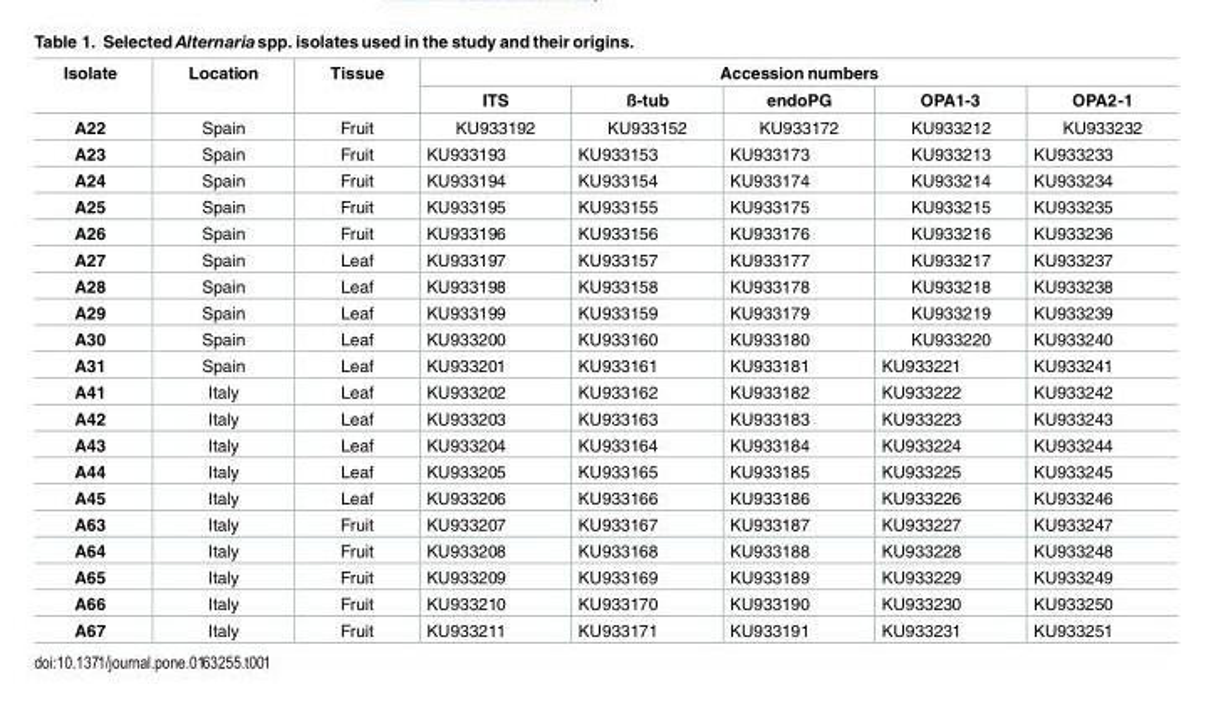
<table><thead><tr><td rowspan="2">Isolate</td><td rowspan="2">Location</td><td rowspan="2">Tissue</td><td colspan="5">Accession numbers</td></tr><tr><td>ITS</td><td>ß-tub</td><td>endoPG</td><td>OPA1-3</td><td>OPA2-1</td></tr></thead><tbody><tr><td>A22</td><td>Spain</td><td>Fruit</td><td>KU933192</td><td>KU933152</td><td>KU933172</td><td>KU933212</td><td>KU933232</td></tr><tr><td>A23</td><td>Spain</td><td>Fruit</td><td>KU933193</td><td>KU933153</td><td>KU933173</td><td>KU933213</td><td>KU933233</td></tr><tr><td>A24</td><td>Spain</td><td>Fruit</td><td>KU933194</td><td>KU933154</td><td>KU933174</td><td>KU933214</td><td>KU933234</td></tr><tr><td>A25</td><td>Spain</td><td>Fruit</td><td>KU933195</td><td>KU933155</td><td>KU933175</td><td>KU933215</td><td>KU933235</td></tr><tr><td>A26</td><td>Spain</td><td>Fruit</td><td>KU933196</td><td>KU933156</td><td>KU933176</td><td>KU933216</td><td>KU933236</td></tr><tr><td>A27</td><td>Spain</td><td>Leaf</td><td>KU933197</td><td>KU933157</td><td>KU933177</td><td>KU933217</td><td>KU933237</td></tr><tr><td>A28</td><td>Spain</td><td>Leaf</td><td>KU933198</td><td>KU933158</td><td>KU933178</td><td>KU933218</td><td>KU933238</td></tr><tr><td>A29</td><td>Spain</td><td>Leaf</td><td>KU933199</td><td>KU933159</td><td>KU933179</td><td>KU933219</td><td>KU933239</td></tr><tr><td>A30</td><td>Spain</td><td>Leaf</td><td>KU933200</td><td>KU933160</td><td>KU933180</td><td>KU933220</td><td>KU933240</td></tr><tr><td>A31</td><td>Spain</td><td>Leaf</td><td>KU933201</td><td>KU933161</td><td>KU933181</td><td>KU933221</td><td>KU933241</td></tr><tr><td>A41</td><td>Italy</td><td>Leaf</td><td>KU933202</td><td>KU933162</td><td>KU933182</td><td>KU933222</td><td>KU933242</td></tr><tr><td>A42</td><td>Italy</td><td>Leaf</td><td>KU933203</td><td>KU933163</td><td>KU933183</td><td>KU933223</td><td>KU933243</td></tr><tr><td>A43</td><td>Italy</td><td>Leaf</td><td>KU933204</td><td>KU933164</td><td>KU933184</td><td>KU933224</td><td>KU933244</td></tr><tr><td>A44</td><td>Italy</td><td>Leaf</td><td>KU933205</td><td>KU933165</td><td>KU933185</td><td>KU933225</td><td>KU933245</td></tr><tr><td>A45</td><td>Italy</td><td>Leaf</td><td>KU933206</td><td>KU933166</td><td>KU933186</td><td>KU933226</td><td>KU933246</td></tr><tr><td>A63</td><td>Italy</td><td>Fruit</td><td>KU933207</td><td>KU933167</td><td>KU933187</td><td>KU933227</td><td>KU933247</td></tr><tr><td>A64</td><td>Italy</td><td>Fruit</td><td>KU933208</td><td>KU933168</td><td>KU933188</td><td>KU933228</td><td>KU933248</td></tr><tr><td>A65</td><td>Italy</td><td>Fruit</td><td>KU933209</td><td>KU933169</td><td>KU933189</td><td>KU933229</td><td>KU933249</td></tr><tr><td>A66</td><td>Italy</td><td>Fruit</td><td>KU933210</td><td>KU933170</td><td>KU933190</td><td>KU933230</td><td>KU933250</td></tr><tr><td>A67</td><td>Italy</td><td>Fruit</td><td>KU933211</td><td>KU933171</td><td>KU933191</td><td>KU933231</td><td>KU933251</td></tr></tbody></table>